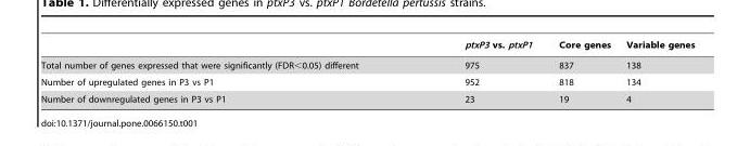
<table><thead><tr><td></td><td>ptxP3 vs. ptxP1</td><td>Core genes</td><td>Variable genes</td></tr></thead><tbody><tr><td>Total number of genes expressed that were significantly (FDR&lt;0.05) different</td><td>975</td><td>837</td><td>138</td></tr><tr><td>Number of upregulated genes in P3 vs P1</td><td>952</td><td>818</td><td>134</td></tr><tr><td>Number of downregulated genes in P3 vs P1</td><td>23</td><td>19</td><td>4</td></tr></tbody></table>